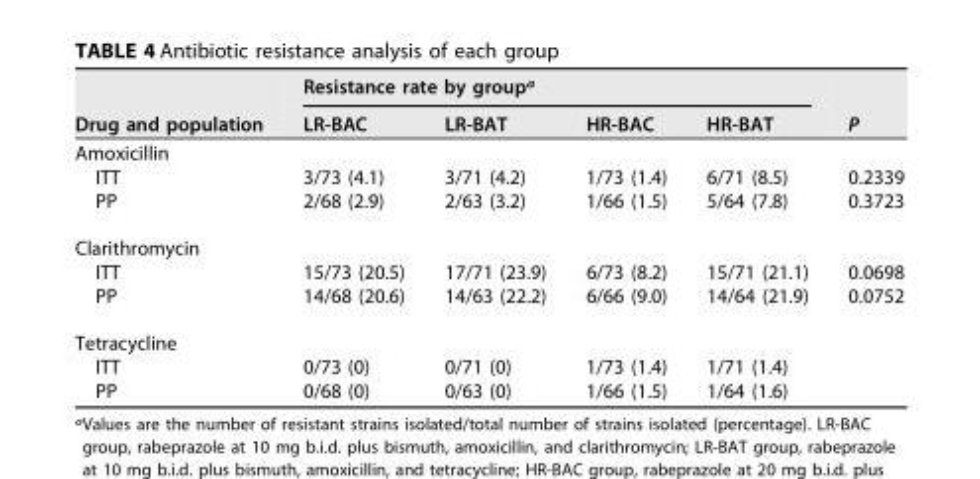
<table><thead><tr><td rowspan="2">Drug and population</td><td colspan="4">Resistance rate by group<sup>a</sup></td><td rowspan="2">P</td></tr><tr><td>LR-BAC</td><td>LR-BAT</td><td>HR-BAC</td><td>HR-BAT</td></tr></thead><tbody><tr><td colspan="6">Amoxicillin</td></tr><tr><td>ITT</td><td>3/73 (4.1)</td><td>3/71 (4.2)</td><td>1/73 (1.4)</td><td>6/71 (8.5)</td><td>0.2339</td></tr><tr><td>PP</td><td>2/68 (2.9)</td><td>2/63 (3.2)</td><td>1/66 (1.5)</td><td>5/64 (7.8)</td><td>0.3723</td></tr><tr><td colspan="6">Clarithromycin</td></tr><tr><td>ITT</td><td>15/73 (20.5)</td><td>17/71 (23.9)</td><td>6/73 (8.2)</td><td>15/71 (21.1)</td><td>0.0698</td></tr><tr><td>PP</td><td>14/68 (20.6)</td><td>14/63 (22.2)</td><td>6/66 (9.0)</td><td>14/64 (21.9)</td><td>0.0752</td></tr><tr><td colspan="6">Tetracycline</td></tr><tr><td>ITT</td><td>0/73 (0)</td><td>0/71 (0)</td><td>1/73 (1.4)</td><td>1/71 (1.4)</td><td></td></tr><tr><td>PP</td><td>0/68 (0)</td><td>0/63 (0)</td><td>1/66 (1.5)</td><td>1/64 (1.6)</td><td></td></tr></tbody></table>